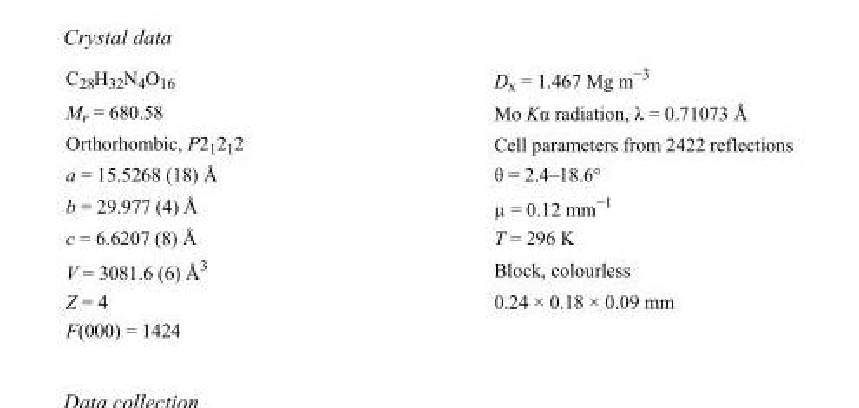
<table><tbody><tr><td>C<sub>28</sub>H<sub>32</sub>N<sub>4</sub>O<sub>16</sub></td><td>D<sub>x</sub> = 1.467 Mg m<sup>−3</sup></td></tr><tr><td>M<sub>r</sub> = 680.58</td><td>Mo Kα radiation, λ = 0.71073 Å</td></tr><tr><td>Orthorhombic, P2<sub>1</sub>2<sub>1</sub>2</td><td>Cell parameters from 2422 reflections</td></tr><tr><td>a = 15.5268 (18) Å</td><td>θ = 2.4–18.6°</td></tr><tr><td>b = 29.977 (4) Å</td><td>µ = 0.12 mm<sup>−1</sup></td></tr><tr><td>c = 6.6207 (8) Å</td><td>T = 296 K</td></tr><tr><td>V = 3081.6 (6) Å<sup>3</sup></td><td>Block, colourless</td></tr><tr><td>Z = 4</td><td>0.24 × 0.18 × 0.09 mm</td></tr><tr><td>F(000) = 1424</td><td></td></tr></tbody></table>